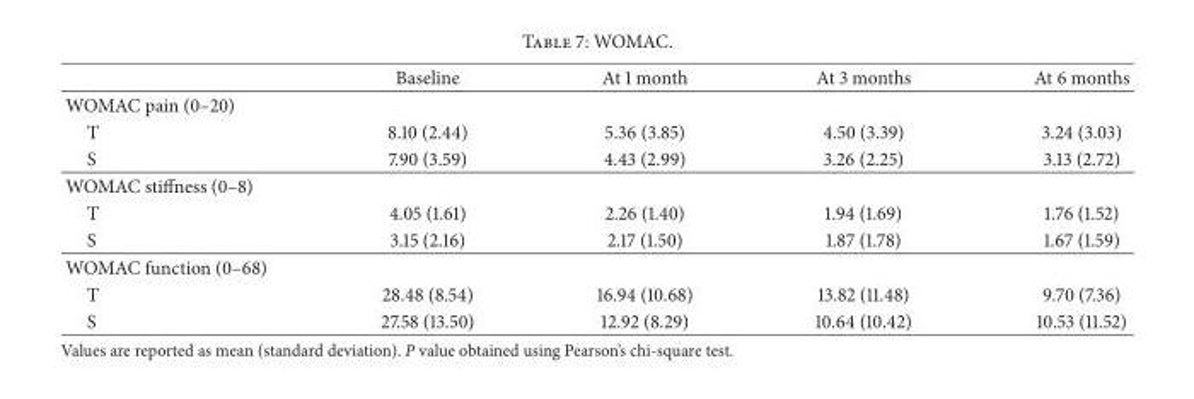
<table><thead><tr><td></td><td>Baseline</td><td>At 1 month</td><td>At 3 months</td><td>At 6 months</td></tr></thead><tbody><tr><td colspan="5">WOMAC pain (0–20)</td></tr><tr><td>T</td><td>8.10 (2.44)</td><td>5.36 (3.85)</td><td>4.50 (3.39)</td><td>3.24 (3.03)</td></tr><tr><td>S</td><td>7.90 (3.59)</td><td>4.43 (2.99)</td><td>3.26 (2.25)</td><td>3.13 (2.72)</td></tr><tr><td colspan="5">WOMAC stiffness (0–8)</td></tr><tr><td>T</td><td>4.05 (1.61)</td><td>2.26 (1.40)</td><td>1.94 (1.69)</td><td>1.76 (1.52)</td></tr><tr><td>S</td><td>3.15 (2.16)</td><td>2.17 (1.50)</td><td>1.87 (1.78)</td><td>1.67 (1.59)</td></tr><tr><td colspan="5">WOMAC function (0–68)</td></tr><tr><td>T</td><td>28.48 (8.54)</td><td>16.94 (10.68)</td><td>13.82 (11.48)</td><td>9.70 (7.36)</td></tr><tr><td>S</td><td>27.58 (13.50)</td><td>12.92 (8.29)</td><td>10.64 (10.42)</td><td>10.53 (11.52)</td></tr></tbody></table>